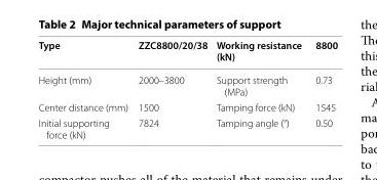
<table><thead><tr><td>Type</td><td>ZZC8800/20/38</td><td>Working resistance (kN)</td><td>8800</td></tr></thead><tbody><tr><td>Height (mm)</td><td>2000–3800</td><td>Support strength (MPa)</td><td>0.73</td></tr><tr><td>Center distance (mm)</td><td>1500</td><td>Tamping force (kN)</td><td>1545</td></tr><tr><td>Initial supporting force (kN)</td><td>7824</td><td>Tamping angle (°)</td><td>0.50</td></tr></tbody></table>